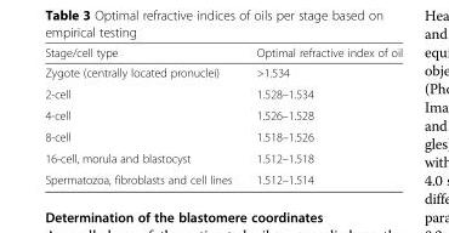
<table><thead><tr><td>Stage/cell type</td><td>Optimal refractive index of oil</td></tr></thead><tbody><tr><td>Zygote (centrally located pronuclei)</td><td>&gt;1.534</td></tr><tr><td>2-cell</td><td>1.528–1.534</td></tr><tr><td>4-cell</td><td>1.526–1.528</td></tr><tr><td>8-cell</td><td>1.518–1.526</td></tr><tr><td>16-cell, morula and blastocyst</td><td>1.512–1.518</td></tr><tr><td>Spermatozoa, fibroblasts and cell lines</td><td>1.512–1.514</td></tr></tbody></table>